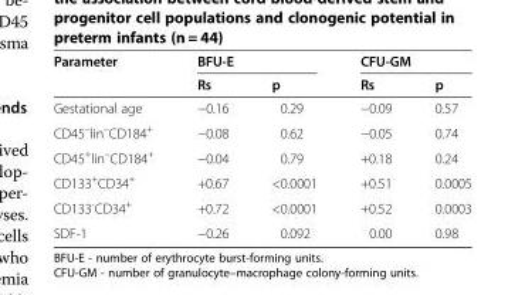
<table><thead><tr><td rowspan="2">Parameter</td><td colspan="2">BFU-E</td><td colspan="2">CFU-GM</td></tr><tr><td>Rs</td><td>p</td><td>Rs</td><td>p</td></tr></thead><tbody><tr><td>Gestational age</td><td>−0.16</td><td>0.29</td><td>−0.09</td><td>0.57</td></tr><tr><td>CD45<sup>–</sup>lin<sup>–</sup>CD184<sup>+</sup></td><td>−0.08</td><td>0.62</td><td>−0.05</td><td>0.74</td></tr><tr><td>CD45<sup>+</sup>lin<sup>–</sup>CD184<sup>+</sup></td><td>−0.04</td><td>0.79</td><td>+0.18</td><td>0.24</td></tr><tr><td>CD133<sup>+</sup>CD34<sup>+</sup></td><td>+0.67</td><td>&lt;0.0001</td><td>+0.51</td><td>0.0005</td></tr><tr><td>CD133<sup>-</sup>CD34<sup>+</sup></td><td>+0.72</td><td>&lt;0.0001</td><td>+0.52</td><td>0.0003</td></tr><tr><td>SDF-1</td><td>−0.26</td><td>0.092</td><td>0.00</td><td>0.98</td></tr></tbody></table>